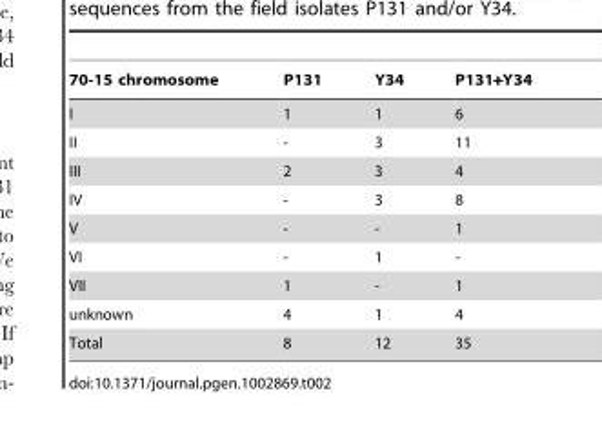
<table><thead><tr><td>70-15 chromosome</td><td>P131</td><td>Y34</td><td>P131+Y34</td></tr></thead><tbody><tr><td>I</td><td>1</td><td>1</td><td>6</td></tr><tr><td>II</td><td>-</td><td>3</td><td>11</td></tr><tr><td>III</td><td>2</td><td>3</td><td>4</td></tr><tr><td>IV</td><td>-</td><td>3</td><td>8</td></tr><tr><td>V</td><td>-</td><td>-</td><td>1</td></tr><tr><td>VI</td><td>-</td><td>1</td><td>-</td></tr><tr><td>VII</td><td>1</td><td>-</td><td>1</td></tr><tr><td>unknown</td><td>4</td><td>1</td><td>4</td></tr><tr><td>Total</td><td>8</td><td>12</td><td>35</td></tr></tbody></table>